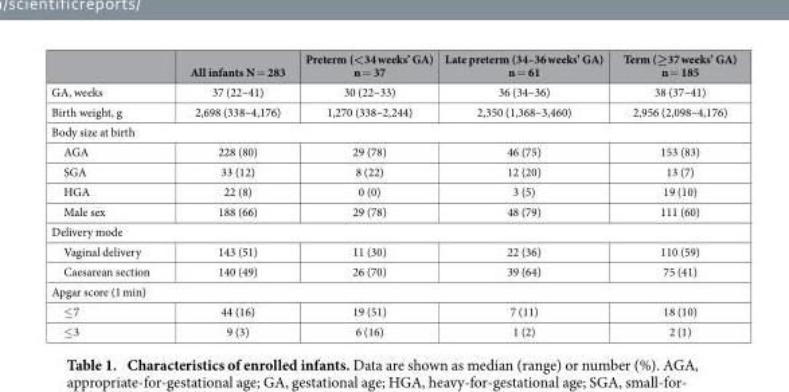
<table><thead><tr><td></td><td>All infants N = 283</td><td>Preterm (&lt;34 weeks’ GA) n = 37</td><td>Late preterm (34–36 weeks’ GA) n = 61</td><td>Term (≥37 weeks’ GA) n = 185</td></tr></thead><tbody><tr><td>GA, weeks</td><td>37 (22–41)</td><td>30 (22–33)</td><td>36 (34–36)</td><td>38 (37–41)</td></tr><tr><td>Birth weight, g</td><td>2,698 (338–4,176)</td><td>1,270 (338–2,244)</td><td>2,350 (1,368–3,460)</td><td>2,956 (2,098–4,176)</td></tr><tr><td colspan="5">Body size at birth</td></tr><tr><td>AGA</td><td>228 (80)</td><td>29 (78)</td><td>46 (75)</td><td>153 (83)</td></tr><tr><td>SGA</td><td>33 (12)</td><td>8 (22)</td><td>12 (20)</td><td>13 (7)</td></tr><tr><td>HGA</td><td>22 (8)</td><td>0 (0)</td><td>3 (5)</td><td>19 (10)</td></tr><tr><td>Male sex</td><td>188 (66)</td><td>29 (78)</td><td>48 (79)</td><td>111 (60)</td></tr><tr><td colspan="5">Delivery mode</td></tr><tr><td>Vaginal delivery</td><td>143 (51)</td><td>11 (30)</td><td>22 (36)</td><td>110 (59)</td></tr><tr><td>Caesarean section</td><td>140 (49)</td><td>26 (70)</td><td>39 (64)</td><td>75 (41)</td></tr><tr><td colspan="5">Apgar score (1 min)</td></tr><tr><td>≤ 7</td><td>44 (16)</td><td>19 (51)</td><td>7 (11)</td><td>18 (10)</td></tr><tr><td>≤ 3</td><td>9 (3)</td><td>6 (16)</td><td>1 (2)</td><td>2 (1)</td></tr></tbody></table>